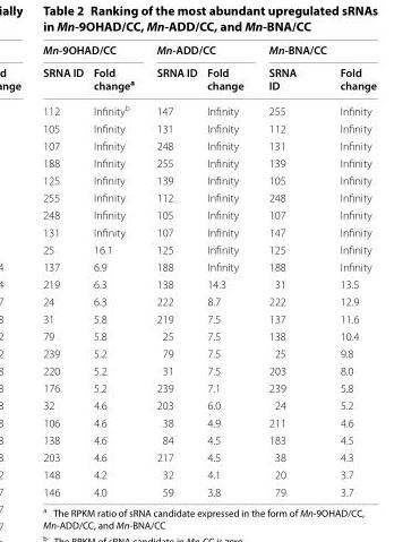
<table><thead><tr><td colspan="2">Mn-9OHAD/CC</td><td colspan="2">Mn-ADD/CC</td><td colspan="2">Mn-BNA/CC</td></tr><tr><td>SRNA ID</td><td>Fold change<sup>a</sup></td><td>SRNA ID</td><td>Fold change</td><td>SRNA ID</td><td>Fold change</td></tr></thead><tbody><tr><td>112</td><td>Infinity<sup>b</sup></td><td>147</td><td>Infinity</td><td>255</td><td>Infinity</td></tr><tr><td>105</td><td>Infinity</td><td>131</td><td>Infinity</td><td>112</td><td>Infinity</td></tr><tr><td>107</td><td>Infinity</td><td>248</td><td>Infinity</td><td>131</td><td>Infinity</td></tr><tr><td>188</td><td>Infinity</td><td>255</td><td>Infinity</td><td>139</td><td>Infinity</td></tr><tr><td>125</td><td>Infinity</td><td>139</td><td>Infinity</td><td>105</td><td>Infinity</td></tr><tr><td>255</td><td>Infinity</td><td>112</td><td>Infinity</td><td>248</td><td>Infinity</td></tr><tr><td>248</td><td>Infinity</td><td>105</td><td>Infinity</td><td>107</td><td>Infinity</td></tr><tr><td>131</td><td>Infinity</td><td>107</td><td>Infinity</td><td>147</td><td>Infinity</td></tr><tr><td>25</td><td>16.1</td><td>125</td><td>Infinity</td><td>125</td><td>Infinity</td></tr><tr><td>137</td><td>6.9</td><td>188</td><td>Infinity</td><td>188</td><td>Infinity</td></tr><tr><td>219</td><td>6.3</td><td>138</td><td>14.3</td><td>31</td><td>13.5</td></tr><tr><td>24</td><td>6.3</td><td>222</td><td>8.7</td><td>222</td><td>12.9</td></tr><tr><td>31</td><td>5.8</td><td>219</td><td>7.5</td><td>137</td><td>11.6</td></tr><tr><td>79</td><td>5.8</td><td>25</td><td>7.5</td><td>138</td><td>10.4</td></tr><tr><td>239</td><td>5.2</td><td>79</td><td>7.5</td><td>25</td><td>9.8</td></tr><tr><td>220</td><td>5.2</td><td>31</td><td>7.5</td><td>203</td><td>8.0</td></tr><tr><td>176</td><td>5.2</td><td>239</td><td>7.1</td><td>239</td><td>5.8</td></tr><tr><td>32</td><td>4.6</td><td>203</td><td>6.0</td><td>24</td><td>5.2</td></tr><tr><td>106</td><td>4.6</td><td>38</td><td>4.9</td><td>211</td><td>4.6</td></tr><tr><td>138</td><td>4.6</td><td>84</td><td>4.5</td><td>183</td><td>4.5</td></tr><tr><td>203</td><td>4.6</td><td>217</td><td>4.5</td><td>38</td><td>4.3</td></tr><tr><td>148</td><td>4.2</td><td>32</td><td>4.1</td><td>20</td><td>3.7</td></tr><tr><td>146</td><td>4.0</td><td>59</td><td>3.8</td><td>79</td><td>3.7</td></tr></tbody></table>